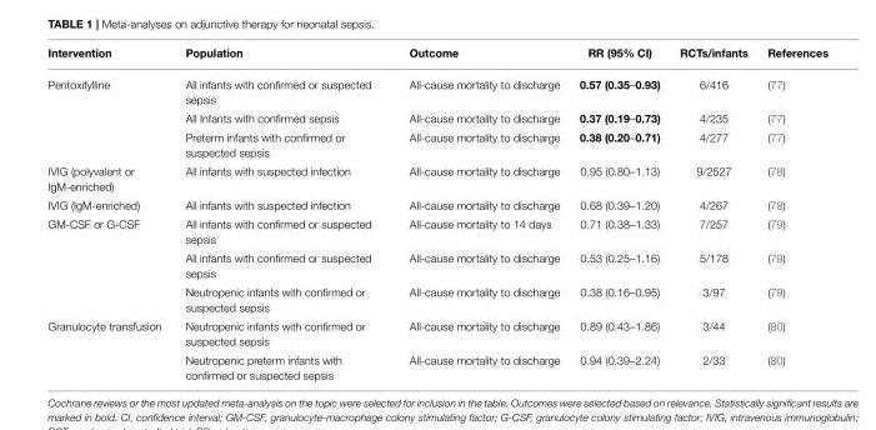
<table><thead><tr><td>Intervention</td><td>Population</td><td>Outcome</td><td>RR (95% CI)</td><td>RCTs/infants</td><td>References</td></tr></thead><tbody><tr><td rowspan="3">Pentoxifylline</td><td>All infants with confirmed or suspected sepsis</td><td>All-cause mortality to discharge</td><td>0.57 (0.35–0.93)</td><td>6/416</td><td>(77)</td></tr><tr><td>All Infants with confirmed sepsis</td><td>All-cause mortality to discharge</td><td>0.37 (0.19–0.73)</td><td>4/235</td><td>(77)</td></tr><tr><td>Preterm infants with confirmed or suspected sepsis</td><td>All-cause mortality to discharge</td><td>0.38 (0.20–0.71)</td><td>4/277</td><td>(77)</td></tr><tr><td>IVIG (polyvalent or IgM-enriched)</td><td>All infants with suspected infection</td><td>All-cause mortality to discharge</td><td>0.95 (0.80–1.13)</td><td>9/2527</td><td>(78)</td></tr><tr><td>IVIG (IgM-enriched)</td><td>All infants with suspected infection</td><td>All-cause mortality to discharge</td><td>0.68 (0.39–1.20)</td><td>4/267</td><td>(78)</td></tr><tr><td rowspan="3">GM-CSF or G-CSF</td><td>All infants with confirmed or suspected sepsis</td><td>All-cause mortality to 14 days</td><td>0.71 (0.38–1.33)</td><td>7/257</td><td>(79)</td></tr><tr><td>All infants with confirmed or suspected sepsis</td><td>All-cause mortality to discharge</td><td>0.53 (0.25–1.16)</td><td>5/178</td><td>(79)</td></tr><tr><td>Neutropenic infants with confirmed or suspected sepsis</td><td>All-cause mortality to discharge</td><td>0.38 (0.16–0.95)</td><td>3/97</td><td>(79)</td></tr><tr><td rowspan="2">Granulocyte transfusion</td><td>Neutropenic infants with confirmed or suspected sepsis</td><td>All-cause mortality to discharge</td><td>0.89 (0.43–1.86)</td><td>3/44</td><td>(80)</td></tr><tr><td>Neutropenic preterm infants with confirmed or suspected sepsis</td><td>All-cause mortality to discharge</td><td>0.94 (0.39–2.24)</td><td>2/33</td><td>(80)</td></tr></tbody></table>